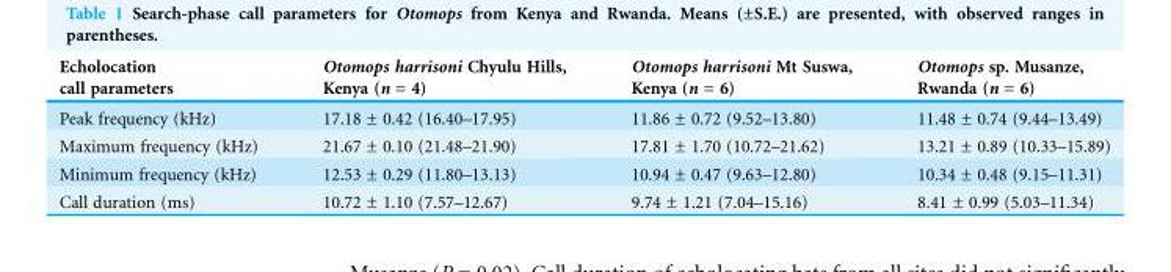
<table><thead><tr><td>Echolocation call parameters</td><td>Otomops harrisoni Chyulu Hills, Kenya (n = 4)</td><td>Otomops harrisoni Mt Suswa, Kenya (n = 6)</td><td>Otomops sp. Musanze, Rwanda (n = 6)</td></tr></thead><tbody><tr><td>Peak frequency (kHz)</td><td>17.18 ± 0.42 (16.40–17.95)</td><td>11.86 ± 0.72 (9.52–13.80)</td><td>11.48 ± 0.74 (9.44–13.49)</td></tr><tr><td>Maximum frequency (kHz)</td><td>21.67 ± 0.10 (21.48–21.90)</td><td>17.81 ± 1.70 (10.72–21.62)</td><td>13.21 ± 0.89 (10.33–15.89)</td></tr><tr><td>Minimum frequency (kHz)</td><td>12.53 ± 0.29 (11.80–13.13)</td><td>10.94 ± 0.47 (9.63–12.80)</td><td>10.34 ± 0.48 (9.15–11.31)</td></tr><tr><td>Call duration (ms)</td><td>10.72 ± 1.10 (7.57–12.67)</td><td>9.74 ± 1.21 (7.04–15.16)</td><td>8.41 ± 0.99 (5.03–11.34)</td></tr></tbody></table>